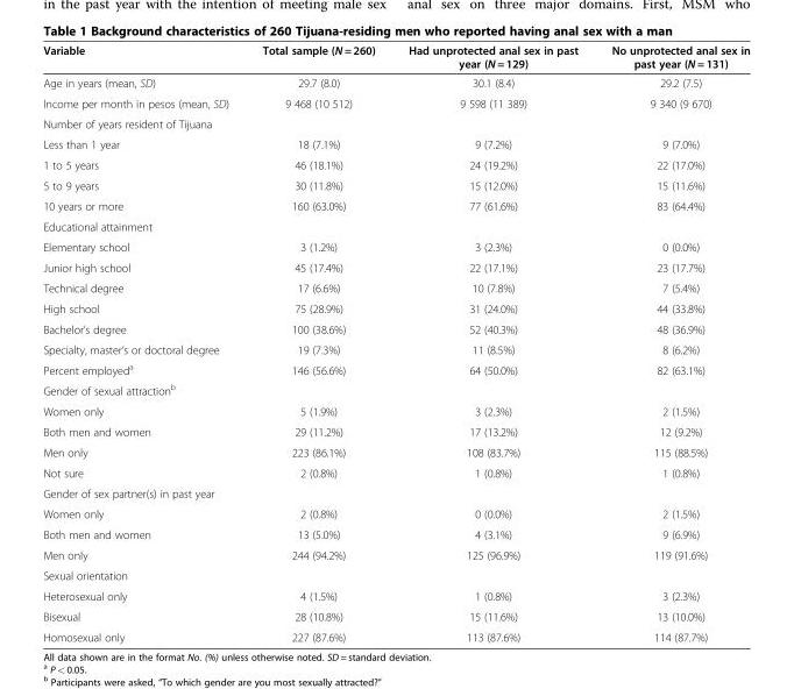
<table><thead><tr><td>Variable</td><td>Total sample (N = 260)</td><td>Had unprotected anal sex in past year (N = 129)</td><td>No unprotected anal sex in past year (N = 131)</td></tr></thead><tbody><tr><td>Age in years (mean, SD)</td><td>29.7 (8.0)</td><td>30.1 (8.4)</td><td>29.2 (7.5)</td></tr><tr><td>Income per month in pesos (mean, SD)</td><td>9 468 (10 512)</td><td>9 598 (11 389)</td><td>9 340 (9 670)</td></tr><tr><td colspan="4">Number of years resident of Tijuana</td></tr><tr><td>Less than 1 year</td><td>18 (7.1%)</td><td>9 (7.2%)</td><td>9 (7.0%)</td></tr><tr><td>1 to 5 years</td><td>46 (18.1%)</td><td>24 (19.2%)</td><td>22 (17.0%)</td></tr><tr><td>5 to 9 years</td><td>30 (11.8%)</td><td>15 (12.0%)</td><td>15 (11.6%)</td></tr><tr><td>10 years or more</td><td>160 (63.0%)</td><td>77 (61.6%)</td><td>83 (64.4%)</td></tr><tr><td colspan="4">Educational attainment</td></tr><tr><td>Elementary school</td><td>3 (1.2%)</td><td>3 (2.3%)</td><td>0 (0.0%)</td></tr><tr><td>Junior high school</td><td>45 (17.4%)</td><td>22 (17.1%)</td><td>23 (17.7%)</td></tr><tr><td>Technical degree</td><td>17 (6.6%)</td><td>10 (7.8%)</td><td>7 (5.4%)</td></tr><tr><td>High school</td><td>75 (28.9%)</td><td>31 (24.0%)</td><td>44 (33.8%)</td></tr><tr><td>Bachelor’s degree</td><td>100 (38.6%)</td><td>52 (40.3%)</td><td>48 (36.9%)</td></tr><tr><td>Specialty, master’s or doctoral degree</td><td>19 (7.3%)</td><td>11 (8.5%)</td><td>8 (6.2%)</td></tr><tr><td>Percent employed<sup>a</sup></td><td>146 (56.6%)</td><td>64 (50.0%)</td><td>82 (63.1%)</td></tr><tr><td colspan="4">Gender of sexual attraction<sup>b</sup></td></tr><tr><td>Women only</td><td>5 (1.9%)</td><td>3 (2.3%)</td><td>2 (1.5%)</td></tr><tr><td>Both men and women</td><td>29 (11.2%)</td><td>17 (13.2%)</td><td>12 (9.2%)</td></tr><tr><td>Men only</td><td>223 (86.1%)</td><td>108 (83.7%)</td><td>115 (88.5%)</td></tr><tr><td>Not sure</td><td>2 (0.8%)</td><td>1 (0.8%)</td><td>1 (0.8%)</td></tr><tr><td colspan="4">Gender of sex partner(s) in past year</td></tr><tr><td>Women only</td><td>2 (0.8%)</td><td>0 (0.0%)</td><td>2 (1.5%)</td></tr><tr><td>Both men and women</td><td>13 (5.0%)</td><td>4 (3.1%)</td><td>9 (6.9%)</td></tr><tr><td>Men only</td><td>244 (94.2%)</td><td>125 (96.9%)</td><td>119 (91.6%)</td></tr><tr><td colspan="4">Sexual orientation</td></tr><tr><td>Heterosexual only</td><td>4 (1.5%)</td><td>1 (0.8%)</td><td>3 (2.3%)</td></tr><tr><td>Bisexual</td><td>28 (10.8%)</td><td>15 (11.6%)</td><td>13 (10.0%)</td></tr><tr><td>Homosexual only</td><td>227 (87.6%)</td><td>113 (87.6%)</td><td>114 (87.7%)</td></tr></tbody></table>